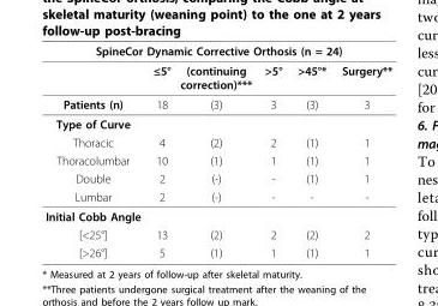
<table><thead><tr><td colspan="6">SpineCor Dynamic Corrective Orthosis (n = 24)</td></tr><tr><td></td><td>≤5°</td><td>(continuing correction)***</td><td>&gt;5°</td><td>&gt;45°*</td><td>Surgery**</td></tr></thead><tbody><tr><td>Patients (n)</td><td>18</td><td>(3)</td><td>3</td><td>(3)</td><td>3</td></tr><tr><td colspan="6">Type of Curve</td></tr><tr><td>Thoracic</td><td>4</td><td>(2)</td><td>2</td><td>(1)</td><td>1</td></tr><tr><td>Thoracolumbar</td><td>10</td><td>(1)</td><td>1</td><td>(1)</td><td>1</td></tr><tr><td>Double</td><td>2</td><td>(-)</td><td>-</td><td>(1)</td><td>1</td></tr><tr><td>Lumbar</td><td>2</td><td>(-)</td><td>-</td><td>-</td><td>-</td></tr><tr><td colspan="6">Initial Cobb Angle</td></tr><tr><td>[&lt;25°]</td><td>13</td><td>(2)</td><td>2</td><td>(2)</td><td>2</td></tr><tr><td>[&gt;26°]</td><td>5</td><td>(1)</td><td>1</td><td>(1)</td><td>1</td></tr></tbody></table>